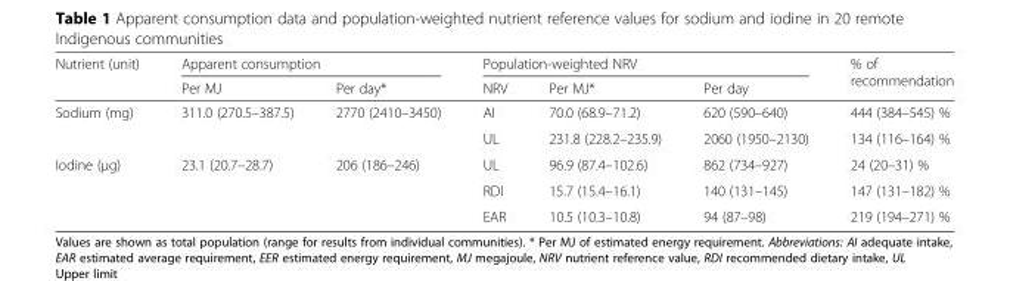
<table><thead><tr><td rowspan="2">Nutrient (unit)</td><td colspan="2">Apparent consumption</td><td colspan="3">Population-weighted NRV</td><td rowspan="2">% of recommendation</td></tr><tr><td>Per MJ</td><td>Per day*</td><td>NRV</td><td>Per MJ*</td><td>Per day</td></tr></thead><tbody><tr><td rowspan="2">Sodium (mg)</td><td rowspan="2">311.0 (270.5–387.5)</td><td rowspan="2">2770 (2410–3450)</td><td>AI</td><td>70.0 (68.9–71.2)</td><td>620 (590–640)</td><td>444 (384–545) %</td></tr><tr><td>UL</td><td>231.8 (228.2–235.9)</td><td>2060 (1950–2130)</td><td>134 (116–164) %</td></tr><tr><td rowspan="3">Iodine (μg)</td><td rowspan="3">23.1 (20.7–28.7)</td><td rowspan="3">206 (186–246)</td><td>UL</td><td>96.9 (87.4–102.6)</td><td>862 (734–927)</td><td>24 (20–31) %</td></tr><tr><td>RDI</td><td>15.7 (15.4–16.1)</td><td>140 (131–145)</td><td>147 (131–182) %</td></tr><tr><td>EAR</td><td>10.5 (10.3–10.8)</td><td>94 (87–98)</td><td>219 (194–271) %</td></tr></tbody></table>